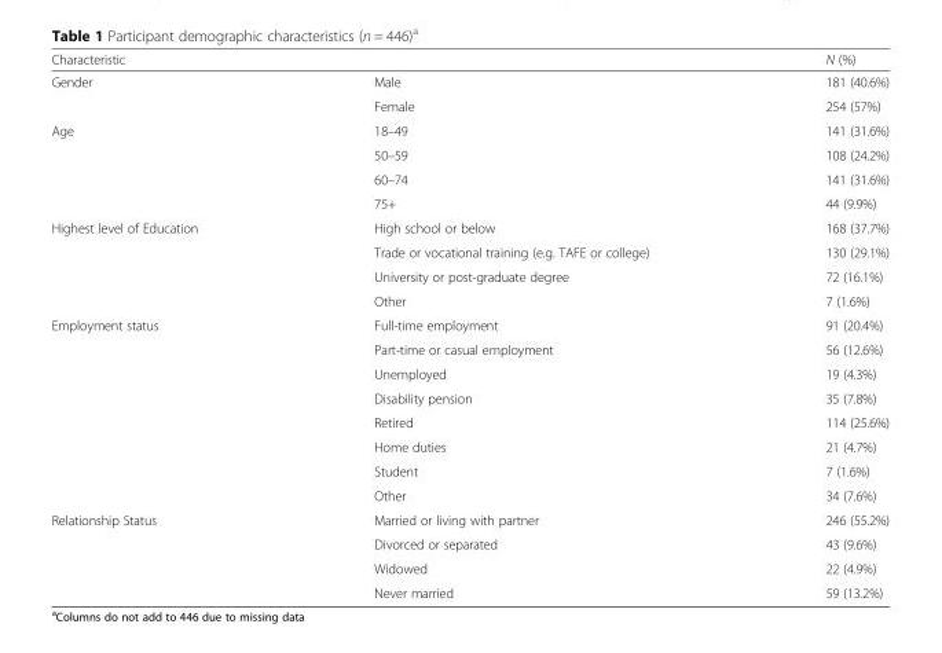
<table><thead><tr><td>Characteristic</td><td></td><td>N (%)</td></tr></thead><tbody><tr><td rowspan="2">Gender</td><td>Male</td><td>181 (40.6%)</td></tr><tr><td>Female</td><td>254 (57%)</td></tr><tr><td rowspan="4">Age</td><td>18–49</td><td>141 (31.6%)</td></tr><tr><td>50–59</td><td>108 (24.2%)</td></tr><tr><td>60–74</td><td>141 (31.6%)</td></tr><tr><td>75+</td><td>44 (9.9%)</td></tr><tr><td rowspan="4">Highest level of Education</td><td>High school or below</td><td>168 (37.7%)</td></tr><tr><td>Trade or vocational training (e.g. TAFE or college)</td><td>130 (29.1%)</td></tr><tr><td>University or post-graduate degree</td><td>72 (16.1%)</td></tr><tr><td>Other</td><td>7 (1.6%)</td></tr><tr><td rowspan="8">Employment status</td><td>Full-time employment</td><td>91 (20.4%)</td></tr><tr><td>Part-time or casual employment</td><td>56 (12.6%)</td></tr><tr><td>Unemployed</td><td>19 (4.3%)</td></tr><tr><td>Disability pension</td><td>35 (7.8%)</td></tr><tr><td>Retired</td><td>114 (25.6%)</td></tr><tr><td>Home duties</td><td>21 (4.7%)</td></tr><tr><td>Student</td><td>7 (1.6%)</td></tr><tr><td>Other</td><td>34 (7.6%)</td></tr><tr><td rowspan="4">Relationship Status</td><td>Married or living with partner</td><td>246 (55.2%)</td></tr><tr><td>Divorced or separated</td><td>43 (9.6%)</td></tr><tr><td>Widowed</td><td>22 (4.9%)</td></tr><tr><td>Never married</td><td>59 (13.2%)</td></tr></tbody></table>